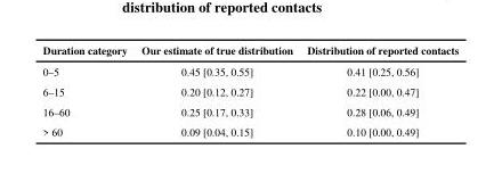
<table><thead><tr><td>Duration category</td><td>Our estimate of true distribution</td><td>Distribution of reported contacts</td></tr></thead><tbody><tr><td>0–5</td><td>0.45 [0.35, 0.55]</td><td>0.41 [0.25, 0.56]</td></tr><tr><td>6–15</td><td>0.20 [0.12, 0.27]</td><td>0.22 [0.00, 0.47]</td></tr><tr><td>16–60</td><td>0.25 [0.17, 0.33]</td><td>0.28 [0.06, 0.49]</td></tr><tr><td>&gt; 60</td><td>0.09 [0.04, 0.15]</td><td>0.10 [0.00, 0.49]</td></tr></tbody></table>